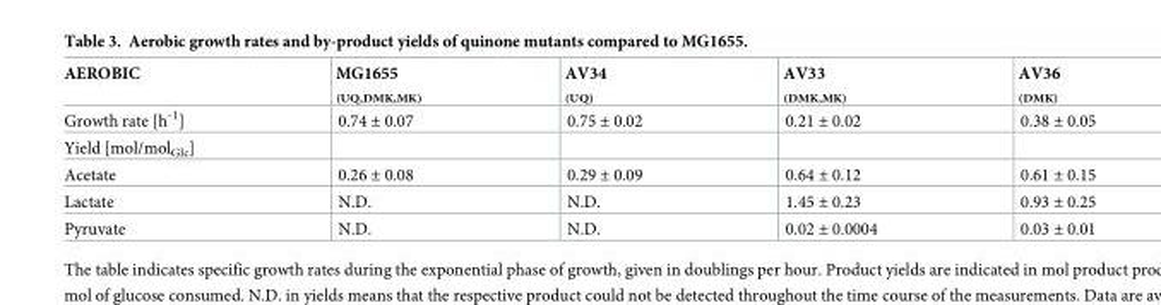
<table><thead><tr><td>AEROBIC</td><td>MG1655 <sub>(UQ,DMK,MK)</sub></td><td>AV34 <sub>(UQ)</sub></td><td>AV33 <sub>(DMK,MK)</sub></td><td>AV36 <sub>(DMK)</sub></td></tr></thead><tbody><tr><td>Growth rate [h<sup>-1</sup>]</td><td>0.74 ± 0.07</td><td>0.75 ± 0.02</td><td>0.21 ± 0.02</td><td>0.38 ± 0.05</td></tr><tr><td colspan="5">Yield [mol/mol<sub>Glc</sub>]</td></tr><tr><td>Acetate</td><td>0.26 ± 0.08</td><td>0.29 ± 0.09</td><td>0.64 ± 0.12</td><td>0.61 ± 0.15</td></tr><tr><td>Lactate</td><td>N.D.</td><td>N.D.</td><td>1.45 ± 0.23</td><td>0.93 ± 0.25</td></tr><tr><td>Pyruvate</td><td>N.D.</td><td>N.D.</td><td>0.02 ± 0.0004</td><td>0.03 ± 0.01</td></tr></tbody></table>